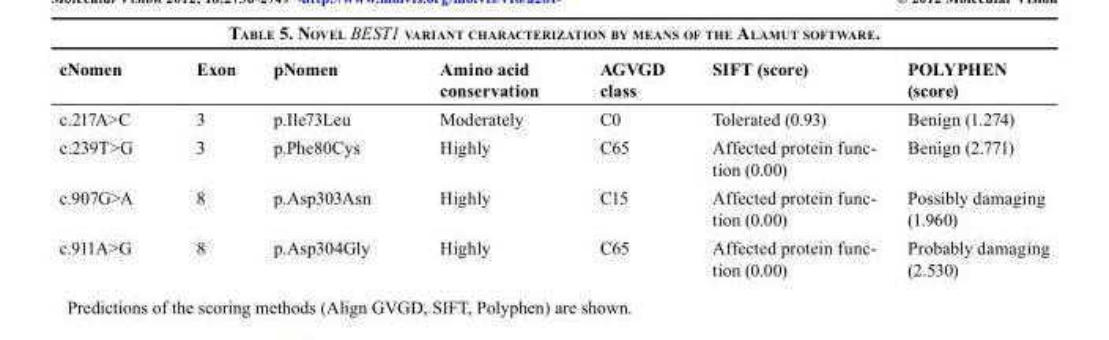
<table><thead><tr><td>cNomen</td><td>Exon</td><td>pNomen</td><td>Amino acid conservation</td><td>AGVGD class</td><td>SIFT (score)</td><td>POLYPHEN (score)</td></tr></thead><tbody><tr><td>c.217A&gt;C</td><td>3</td><td>p.Ile73Leu</td><td>Moderately</td><td>C0</td><td>Tolerated (0.93)</td><td>Benign (1.274)</td></tr><tr><td>c.239T&gt;G</td><td>3</td><td>p.Phe80Cys</td><td>Highly</td><td>C65</td><td>Affected protein func- tion (0.00)</td><td>Benign (2.771)</td></tr><tr><td>c.907G&gt;A</td><td>8</td><td>p.Asp303Asn</td><td>Highly</td><td>C15</td><td>Affected protein func- tion (0.00)</td><td>Possibly damaging (1.960)</td></tr><tr><td>c.911A&gt;G</td><td>8</td><td>p.Asp304Gly</td><td>Highly</td><td>C65</td><td>Affected protein func- tion (0.00)</td><td>Probably damaging (2.530)</td></tr></tbody></table>